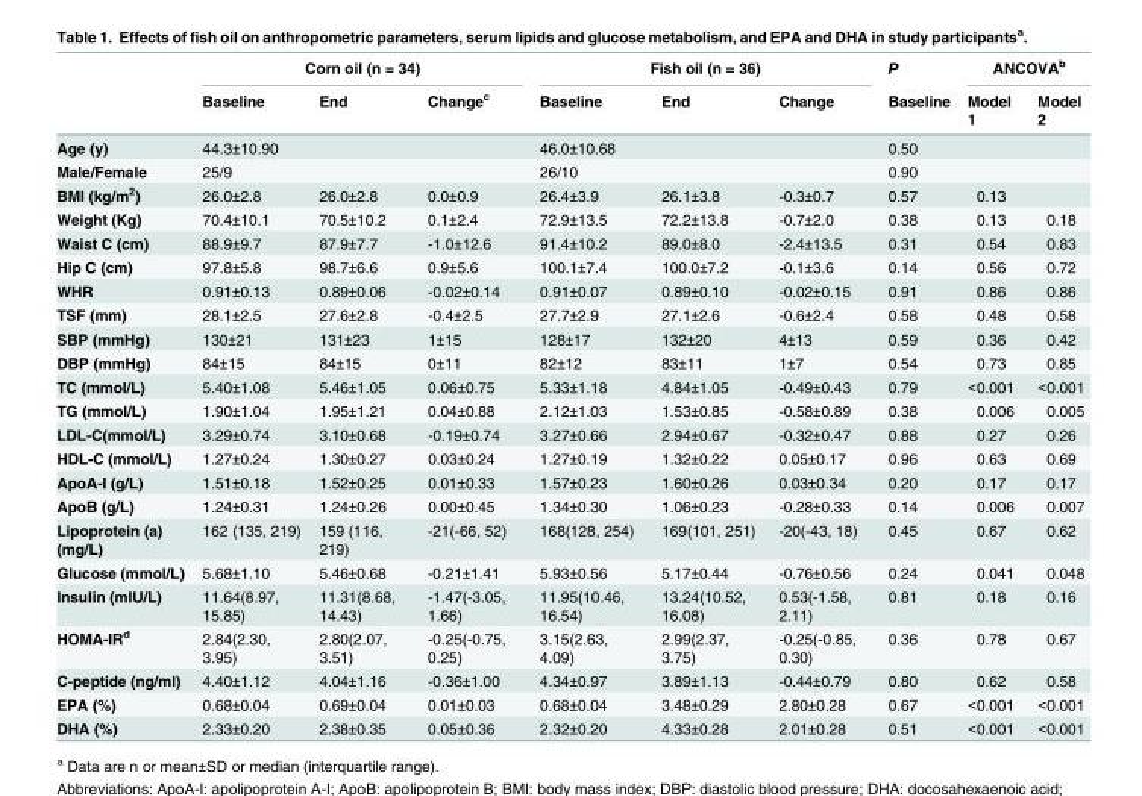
<table><thead><tr><td rowspan="2"></td><td colspan="3">Corn oil (n = 34)</td><td colspan="3">Fish oil (n = 36)</td><td rowspan="2">P Baseline</td><td colspan="2">ANCOVA<sup>b</sup></td></tr><tr><td>Baseline</td><td>End</td><td>Change<sup>c</sup></td><td>Baseline</td><td>End</td><td>Change</td><td>Model 1</td><td>Model 2</td></tr></thead><tbody><tr><td>Age (y)</td><td>44.3±10.90</td><td></td><td></td><td>46.0±10.68</td><td></td><td></td><td>0.50</td><td></td><td></td></tr><tr><td>Male/Female</td><td>25/9</td><td></td><td></td><td>26/10</td><td></td><td></td><td>0.90</td><td></td><td></td></tr><tr><td>BMI (kg/m<sup>2</sup>)</td><td>26.0±2.8</td><td>26.0±2.8</td><td>0.0±0.9</td><td>26.4±3.9</td><td>26.1±3.8</td><td>-0.3±0.7</td><td>0.57</td><td>0.13</td><td></td></tr><tr><td>Weight (Kg)</td><td>70.4±10.1</td><td>70.5±10.2</td><td>0.1±2.4</td><td>72.9±13.5</td><td>72.2±13.8</td><td>-0.7±2.0</td><td>0.38</td><td>0.13</td><td>0.18</td></tr><tr><td>Waist C (cm)</td><td>88.9±9.7</td><td>87.9±7.7</td><td>-1.0±12.6</td><td>91.4±10.2</td><td>89.0±8.0</td><td>-2.4±13.5</td><td>0.31</td><td>0.54</td><td>0.83</td></tr><tr><td>Hip C (cm)</td><td>97.8±5.8</td><td>98.7±6.6</td><td>0.9±5.6</td><td>100.1±7.4</td><td>100.0±7.2</td><td>-0.1±3.6</td><td>0.14</td><td>0.56</td><td>0.72</td></tr><tr><td>WHR</td><td>0.91±0.13</td><td>0.89±0.06</td><td>-0.02±0.14</td><td>0.91±0.07</td><td>0.89±0.10</td><td>-0.02±0.15</td><td>0.91</td><td>0.86</td><td>0.86</td></tr><tr><td>TSF (mm)</td><td>28.1±2.5</td><td>27.6±2.8</td><td>-0.4±2.5</td><td>27.7±2.9</td><td>27.1±2.6</td><td>-0.6±2.4</td><td>0.58</td><td>0.48</td><td>0.58</td></tr><tr><td>SBP (mmHg)</td><td>130±21</td><td>131±23</td><td>1±15</td><td>128±17</td><td>132±20</td><td>4±13</td><td>0.59</td><td>0.36</td><td>0.42</td></tr><tr><td>DBP (mmHg)</td><td>84±15</td><td>84±15</td><td>0±11</td><td>82±12</td><td>83±11</td><td>1±7</td><td>0.54</td><td>0.73</td><td>0.85</td></tr><tr><td>TC (mmol/L)</td><td>5.40±1.08</td><td>5.46±1.05</td><td>0.06±0.75</td><td>5.33±1.18</td><td>4.84±1.05</td><td>-0.49±0.43</td><td>0.79</td><td>&lt;0.001</td><td>&lt;0.001</td></tr><tr><td>TG (mmol/L)</td><td>1.90±1.04</td><td>1.95±1.21</td><td>0.04±0.88</td><td>2.12±1.03</td><td>1.53±0.85</td><td>-0.58±0.89</td><td>0.38</td><td>0.006</td><td>0.005</td></tr><tr><td>LDL-C(mmol/L)</td><td>3.29±0.74</td><td>3.10±0.68</td><td>-0.19±0.74</td><td>3.27±0.66</td><td>2.94±0.67</td><td>-0.32±0.47</td><td>0.88</td><td>0.27</td><td>0.26</td></tr><tr><td>HDL-C (mmol/L)</td><td>1.27±0.24</td><td>1.30±0.27</td><td>0.03±0.24</td><td>1.27±0.19</td><td>1.32±0.22</td><td>0.05±0.17</td><td>0.96</td><td>0.63</td><td>0.69</td></tr><tr><td>ApoA-I (g/L)</td><td>1.51±0.18</td><td>1.52±0.25</td><td>0.01±0.33</td><td>1.57±0.23</td><td>1.60±0.26</td><td>0.03±0.34</td><td>0.20</td><td>0.17</td><td>0.17</td></tr><tr><td>ApoB (g/L)</td><td>1.24±0.31</td><td>1.24±0.26</td><td>0.00±0.45</td><td>1.34±0.30</td><td>1.06±0.23</td><td>-0.28±0.33</td><td>0.14</td><td>0.006</td><td>0.007</td></tr><tr><td>Lipoprotein (a) (mg/L)</td><td>162 (135, 219)</td><td>159 (116, 219)</td><td>-21(-66, 52)</td><td>168(128, 254)</td><td>169(101, 251)</td><td>-20(-43, 18)</td><td>0.45</td><td>0.67</td><td>0.62</td></tr><tr><td>Glucose (mmol/L)</td><td>5.68±1.10</td><td>5.46±0.68</td><td>-0.21±1.41</td><td>5.93±0.56</td><td>5.17±0.44</td><td>-0.76±0.56</td><td>0.24</td><td>0.041</td><td>0.048</td></tr><tr><td>Insulin (mIU/L)</td><td>11.64(8.97, 15.85)</td><td>11.31(8.68, 14.43)</td><td>-1.47(-3.05, 1.66)</td><td>11.95(10.46, 16.54)</td><td>13.24(10.52, 16.08)</td><td>0.53(-1.58, 2.11)</td><td>0.81</td><td>0.18</td><td>0.16</td></tr><tr><td>HOMA-IR<sup>d</sup></td><td>2.84(2.30, 3.95)</td><td>2.80(2.07, 3.51)</td><td>-0.25(-0.75, 0.25)</td><td>3.15(2.63, 4.09)</td><td>2.99(2.37, 3.75)</td><td>-0.25(-0.85, 0.30)</td><td>0.36</td><td>0.78</td><td>0.67</td></tr><tr><td>C-peptide (ng/ml)</td><td>4.40±1.12</td><td>4.04±1.16</td><td>-0.36±1.00</td><td>4.34±0.97</td><td>3.89±1.13</td><td>-0.44±0.79</td><td>0.80</td><td>0.62</td><td>0.58</td></tr><tr><td>EPA (%)</td><td>0.68±0.04</td><td>0.69±0.04</td><td>0.01±0.03</td><td>0.68±0.04</td><td>3.48±0.29</td><td>2.80±0.28</td><td>0.67</td><td>&lt;0.001</td><td>&lt;0.001</td></tr><tr><td>DHA (%)</td><td>2.33±0.20</td><td>2.38±0.35</td><td>0.05±0.36</td><td>2.32±0.20</td><td>4.33±0.28</td><td>2.01±0.28</td><td>0.51</td><td>&lt;0.001</td><td>&lt;0.001</td></tr></tbody></table>